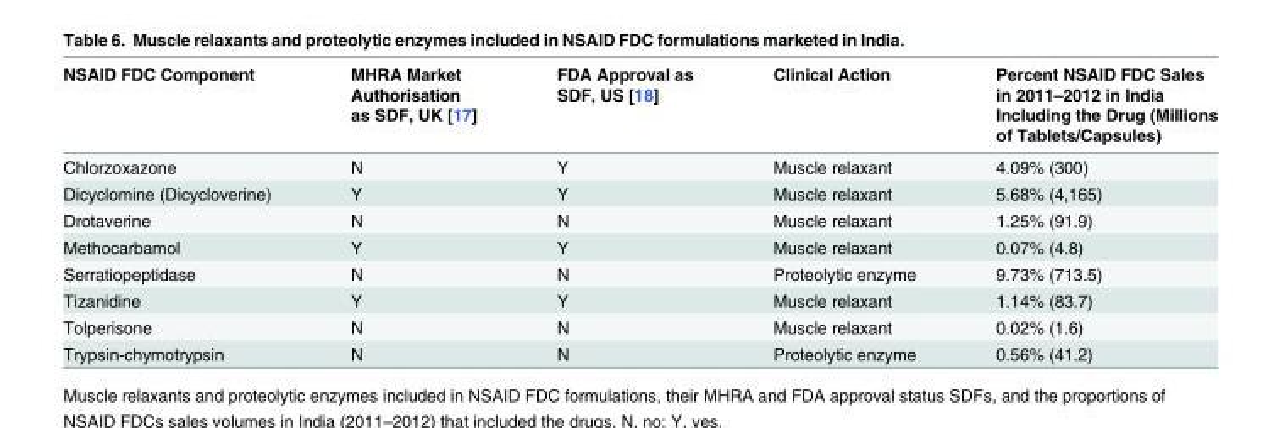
<table><thead><tr><td>NSAID FDC Component</td><td>MHRA Market Authorisation as SDF, UK [17]</td><td>FDA Approval as SDF, US [18]</td><td>Clinical Action</td><td>Percent NSAID FDC Sales in 2011–2012 in India Including the Drug (Millions of Tablets/Capsules)</td></tr></thead><tbody><tr><td>Chlorzoxazone</td><td>N</td><td>Y</td><td>Muscle relaxant</td><td>4.09% (300)</td></tr><tr><td>Dicyclomine (Dicycloverine)</td><td>Y</td><td>Y</td><td>Muscle relaxant</td><td>5.68% (4,165)</td></tr><tr><td>Drotaverine</td><td>N</td><td>N</td><td>Muscle relaxant</td><td>1.25% (91.9)</td></tr><tr><td>Methocarbamol</td><td>Y</td><td>Y</td><td>Muscle relaxant</td><td>0.07% (4.8)</td></tr><tr><td>Serratiopeptidase</td><td>N</td><td>N</td><td>Proteolytic enzyme</td><td>9.73% (713.5)</td></tr><tr><td>Tizanidine</td><td>Y</td><td>Y</td><td>Muscle relaxant</td><td>1.14% (83.7)</td></tr><tr><td>Tolperisone</td><td>N</td><td>N</td><td>Muscle relaxant</td><td>0.02% (1.6)</td></tr><tr><td>Trypsin-chymotrypsin</td><td>N</td><td>N</td><td>Proteolytic enzyme</td><td>0.56% (41.2)</td></tr></tbody></table>